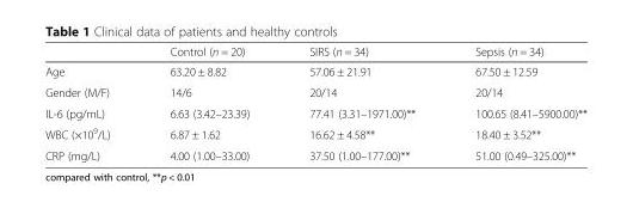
<table><thead><tr><td></td><td>Control (n = 20)</td><td>SIRS (n = 34)</td><td>Sepsis (n = 34)</td></tr></thead><tbody><tr><td>Age</td><td>63.20 ± 8.82</td><td>57.06 ± 21.91</td><td>67.50 ± 12.59</td></tr><tr><td>Gender (M/F)</td><td>14/6</td><td>20/14</td><td>20/14</td></tr><tr><td>IL-6 (pg/mL)</td><td>6.63 (3.42–23.39)</td><td>77.41 (3.31–1971.00)**</td><td>100.65 (8.41–5900.00)**</td></tr><tr><td>WBC (×10<sup>9</sup>/L)</td><td>6.87 ± 1.62</td><td>16.62 ± 4.58**</td><td>18.40 ± 3.52**</td></tr><tr><td>CRP (mg/L)</td><td>4.00 (1.00–33.00)</td><td>37.50 (1.00–177.00)**</td><td>51.00 (0.49–325.00)**</td></tr></tbody></table>